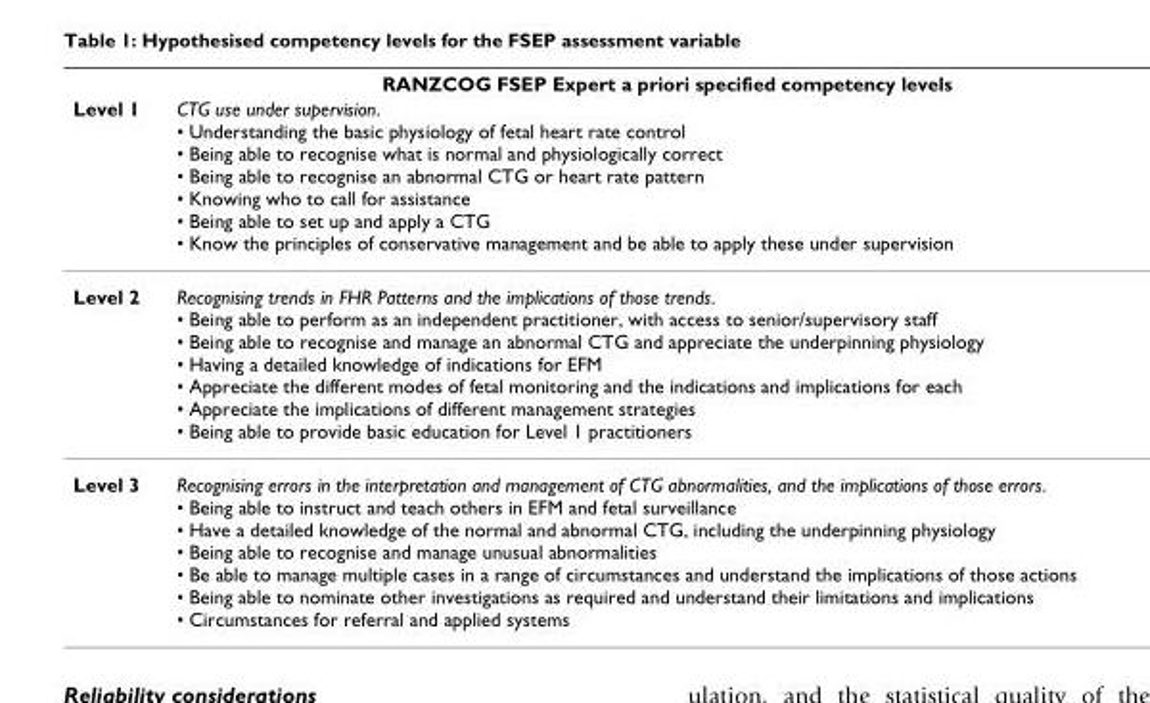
<table><thead><tr><td colspan="2">RANZCOG FSEP Expert a priori specified competency levels</td></tr><tr><td>Level 1</td><td>CTG use under supervision. • Understanding the basic physiology of fetal heart rate control • Being able to recognise what is normal and physiologically correct • Being able to recognise an abnormal CTG or heart rate pattern • Knowing who to call for assistance • Being able to set up and apply a CTG • Know the principles of conservative management and be able to apply these under supervision</td></tr></thead><tbody><tr><td>Level 2</td><td>Recognising trends in FHR Patterns and the implications of those trends. • Being able to perform as an independent practitioner, with access to senior/supervisory staff • Being able to recognise and manage an abnormal CTG and appreciate the underpinning physiology • Having a detailed knowledge of indications for EFM • Appreciate the different modes of fetal monitoring and the indications and implications for each • Appreciate the implications of different management strategies • Being able to provide basic education for Level 1 practitioners</td></tr><tr><td>Level 3</td><td>Recognising errors in the interpretation and management of CTG abnormalities, and the implications of those errors. • Being able to instruct and teach others in EFM and fetal surveillance • Have a detailed knowledge of the normal and abnormal CTG, including the underpinning physiology • Being able to recognise and manage unusual abnormalities • Be able to manage multiple cases in a range of circumstances and understand the implications of those actions • Being able to nominate other investigations as required and understand their limitations and implications • Circumstances for referral and applied systems</td></tr></tbody></table>